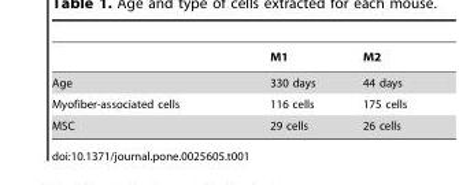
<table><thead><tr><td></td><td>M1</td><td>M2</td></tr></thead><tbody><tr><td>Age</td><td>330 days</td><td>44 days</td></tr><tr><td>Myofiber-associated cells</td><td>116 cells</td><td>175 cells</td></tr><tr><td>MSC</td><td>29 cells</td><td>26 cells</td></tr></tbody></table>